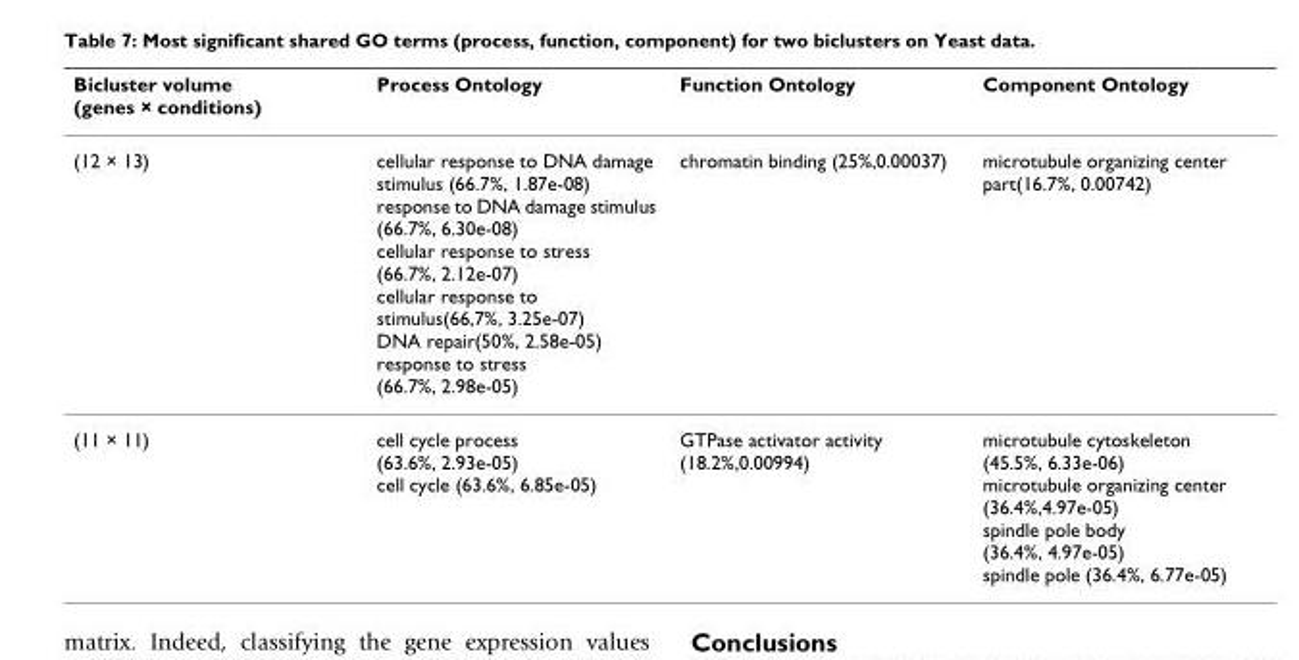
<table><thead><tr><td>Bicluster volume (genes × conditions)</td><td>Process Ontology</td><td>Function Ontology</td><td>Component Ontology</td></tr></thead><tbody><tr><td>(12 × 13)</td><td>cellular response to DNA damage stimulus (66.7%, 1.87e-08) response to DNA damage stimulus (66.7%, 6.30e-08) cellular response to stress (66.7%, 2.12e-07) cellular response to stimulus(66,7%, 3.25e-07) DNA repair(50%, 2.58e-05) response to stress (66.7%, 2.98e-05)</td><td>chromatin binding (25%,0.00037)</td><td>microtubule organizing center part(16.7%, 0.00742)</td></tr><tr><td>(11 × 11)</td><td>cell cycle process (63.6%, 2.93e-05) cell cycle (63.6%, 6.85e-05)</td><td>GTPase activator activity (18.2%,0.00994)</td><td>microtubule cytoskeleton (45.5%, 6.33e-06) microtubule organizing center (36.4%,4.97e-05) spindle pole body (36.4%, 4.97e-05) spindle pole (36.4%, 6.77e-05)</td></tr></tbody></table>